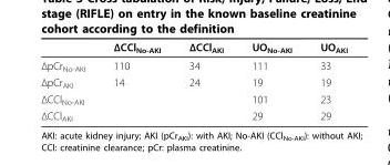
<table><thead><tr><td></td><td>ΔCCl<sub>No-AKI</sub></td><td>ΔCCl<sub>AKI</sub></td><td>UO<sub>No-AKI</sub></td><td>UO<sub>AKI</sub></td></tr></thead><tbody><tr><td>ΔpCr<sub>No-AKI</sub></td><td>110</td><td>34</td><td>111</td><td>33</td></tr><tr><td>ΔpCr<sub>AKI</sub></td><td>14</td><td>24</td><td>19</td><td>19</td></tr><tr><td>ΔCCl<sub>No-AKI</sub></td><td></td><td></td><td>101</td><td>23</td></tr><tr><td>ΔCCl<sub>AKI</sub></td><td></td><td></td><td>29</td><td>29</td></tr></tbody></table>